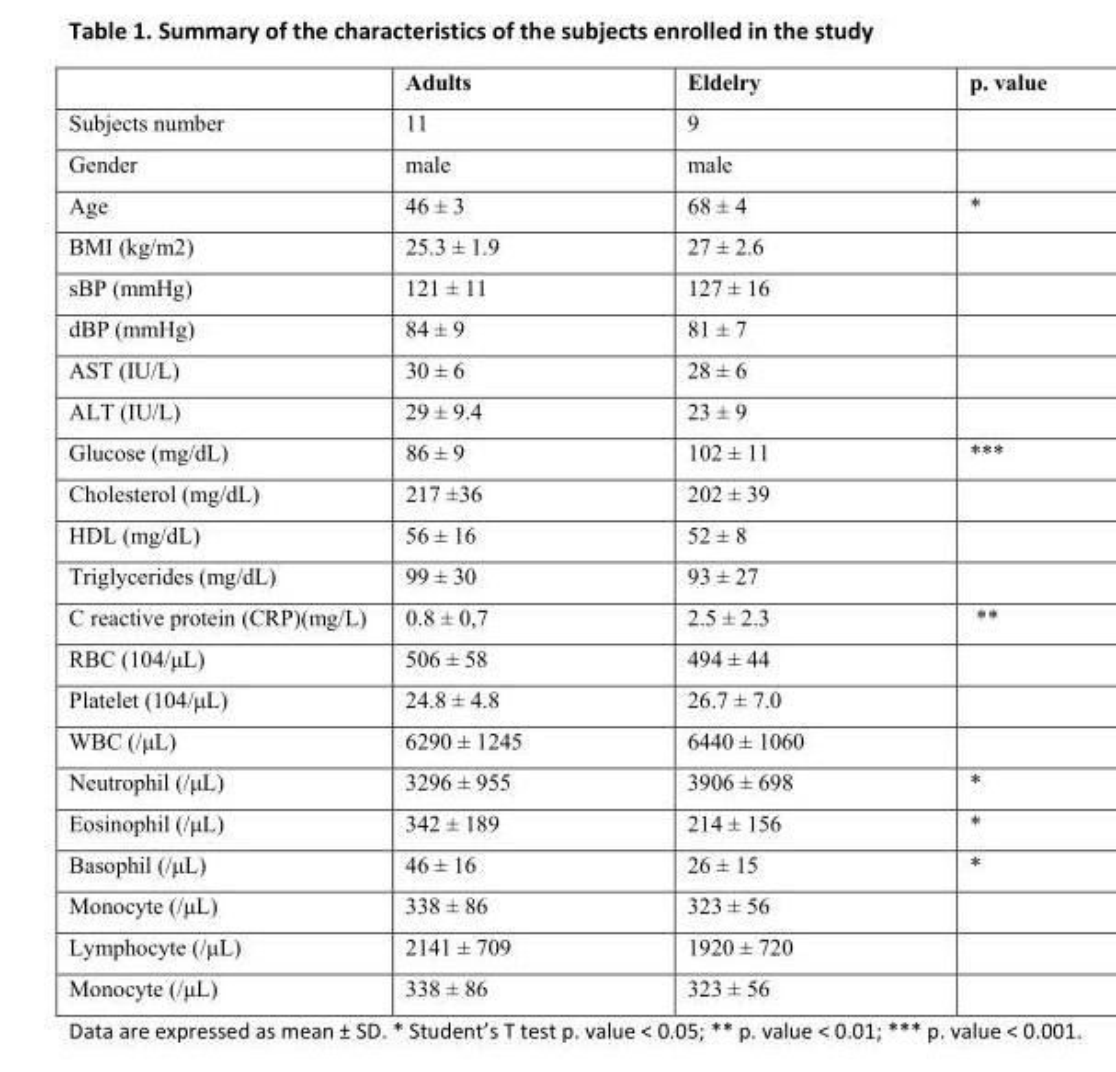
<table><thead><tr><td></td><td>Adults</td><td>Eldelry</td><td>p. value</td></tr></thead><tbody><tr><td>Subjects number</td><td>11</td><td>9</td><td></td></tr><tr><td>Gender</td><td>male</td><td>male</td><td></td></tr><tr><td>Age</td><td>46 ± 3</td><td>68 ± 4</td><td>*</td></tr><tr><td>BMI (kg/m2)</td><td>25.3 ± 1.9</td><td>27 ± 2.6</td><td></td></tr><tr><td>sBP (mmHg)</td><td>121 ± 11</td><td>127 ± 16</td><td></td></tr><tr><td>dBP (mmHg)</td><td>84 ± 9</td><td>81 ± 7</td><td></td></tr><tr><td>AST (IU/L)</td><td>30 ± 6</td><td>28 ± 6</td><td></td></tr><tr><td>ALT (IU/L)</td><td>29 ± 9.4</td><td>23 ± 9</td><td></td></tr><tr><td>Glucose (mg/dL)</td><td>86 ± 9</td><td>102 ± 11</td><td>***</td></tr><tr><td>Cholesterol (mg/dL)</td><td>217 ±36</td><td>202 ± 39</td><td></td></tr><tr><td>HDL (mg/dL)</td><td>56 ± 16</td><td>52 ± 8</td><td></td></tr><tr><td>Triglycerides (mg/dL)</td><td>99 ± 30</td><td>93 ± 27</td><td></td></tr><tr><td>C reactive protein (CRP)(mg/L)</td><td>0.8 ± 0,7</td><td>2.5 ± 2.3</td><td>**</td></tr><tr><td>RBC (104/μL)</td><td>506 ± 58</td><td>494 ± 44</td><td></td></tr><tr><td>Platelet (104/μL)</td><td>24.8 ± 4.8</td><td>26.7 ± 7.0</td><td></td></tr><tr><td>WBC (/μL)</td><td>6290 ± 1245</td><td>6440 ± 1060</td><td></td></tr><tr><td>Neutrophil (/μL)</td><td>3296 ± 955</td><td>3906 ± 698</td><td>*</td></tr><tr><td>Eosinophil (/μL)</td><td>342 ± 189</td><td>214 ± 156</td><td>*</td></tr><tr><td>Basophil (/μL)</td><td>46 ± 16</td><td>26 ± 15</td><td>*</td></tr><tr><td>Monocyte (/μL)</td><td>338 ± 86</td><td>323 ± 56</td><td></td></tr><tr><td>Lymphocyte (/μL)</td><td>2141 ± 709</td><td>1920 ± 720</td><td></td></tr><tr><td>Monocyte (/μL)</td><td>338 ± 86</td><td>323 ± 56</td><td></td></tr></tbody></table>